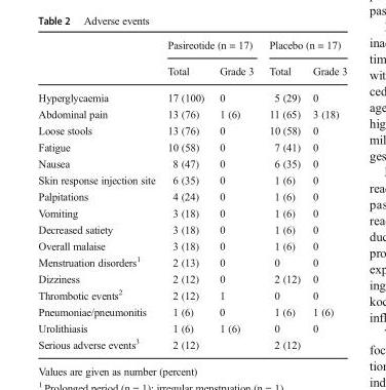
<table><thead><tr><td rowspan="2"></td><td colspan="2">Pasireotide (n = 17)</td><td colspan="2">Placebo (n = 17)</td></tr><tr><td>Total</td><td>Grade 3</td><td>Total</td><td>Grade 3</td></tr></thead><tbody><tr><td>Hyperglycaemia</td><td>17 (100)</td><td>0</td><td>5 (29)</td><td>0</td></tr><tr><td>Abdominal pain</td><td>13 (76)</td><td>1 (6)</td><td>11 (65)</td><td>3 (18)</td></tr><tr><td>Loose stools</td><td>13 (76)</td><td>0</td><td>10 (58)</td><td>0</td></tr><tr><td>Fatigue</td><td>10 (58)</td><td>0</td><td>7 (41)</td><td>0</td></tr><tr><td>Nausea</td><td>8 (47)</td><td>0</td><td>6 (35)</td><td>0</td></tr><tr><td>Skin response injection site</td><td>6 (35)</td><td>0</td><td>1 (6)</td><td>0</td></tr><tr><td>Palpitations</td><td>4 (24)</td><td>0</td><td>1 (6)</td><td>0</td></tr><tr><td>Vomiting</td><td>3 (18)</td><td>0</td><td>1 (6)</td><td>0</td></tr><tr><td>Decreased satiety</td><td>3 (18)</td><td>0</td><td>1 (6)</td><td>0</td></tr><tr><td>Overall malaise</td><td>3 (18)</td><td>0</td><td>1 (6)</td><td>0</td></tr><tr><td>Menstruation disorders<sup>1</sup></td><td>2 (13)</td><td>0</td><td>0</td><td>0</td></tr><tr><td>Dizziness</td><td>2 (12)</td><td>0</td><td>2 (12)</td><td>0</td></tr><tr><td>Thrombotic events<sup>2</sup></td><td>2 (12)</td><td>1</td><td>0</td><td>0</td></tr><tr><td>Pneumoniae/pneumonitis</td><td>1 (6)</td><td>0</td><td>1 (6)</td><td>1 (6)</td></tr><tr><td>Urolithiasis</td><td>1 (6)</td><td>1 (6)</td><td>0</td><td>0</td></tr><tr><td>Serious adverse events<sup>3</sup></td><td>2 (12)</td><td></td><td>2 (12)</td><td></td></tr></tbody></table>